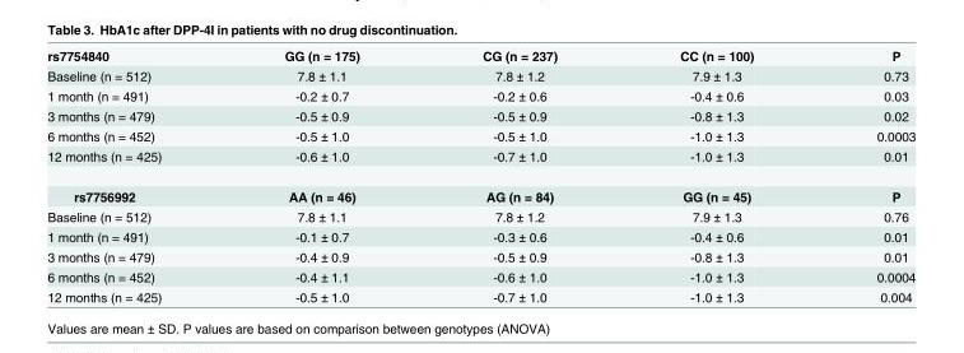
<table><tbody><tr><td>rs7754840</td><td>GG (n = 175)</td><td>CG (n = 237)</td><td>CC (n = 100)</td><td>P</td></tr><tr><td>Baseline (n = 512)</td><td>7.8 ± 1.1</td><td>7.8 ± 1.2</td><td>7.9 ± 1.3</td><td>0.73</td></tr><tr><td>1 month (n = 491)</td><td>-0.2 ± 0.7</td><td>-0.2 ± 0.6</td><td>-0.4 ± 0.6</td><td>0.03</td></tr><tr><td>3 months (n = 479)</td><td>-0.5 ± 0.9</td><td>-0.5 ± 0.9</td><td>-0.8 ± 1.3</td><td>0.02</td></tr><tr><td>6 months (n = 452)</td><td>-0.5 ± 1.0</td><td>-0.5 ± 1.0</td><td>-1.0 ± 1.3</td><td>0.0003</td></tr><tr><td>12 months (n = 425)</td><td>-0.6 ± 1.0</td><td>-0.7 ± 1.0</td><td>-1.0 ± 1.3</td><td>0.01</td></tr><tr><td>rs7756992</td><td>AA (n = 46)</td><td>AG (n = 84)</td><td>GG (n = 45)</td><td>P</td></tr><tr><td>Baseline (n = 512)</td><td>7.8 ± 1.1</td><td>7.8 ± 1.2</td><td>7.9 ± 1.3</td><td>0.76</td></tr><tr><td>1 month (n = 491)</td><td>-0.1 ± 0.7</td><td>-0.3 ± 0.6</td><td>-0.4 ± 0.6</td><td>0.01</td></tr><tr><td>3 months (n = 479)</td><td>-0.4 ± 0.9</td><td>-0.5 ± 0.9</td><td>-0.8 ± 1.3</td><td>0.01</td></tr><tr><td>6 months (n = 452)</td><td>-0.4 ± 1.1</td><td>-0.6 ± 1.0</td><td>-1.0 ± 1.3</td><td>0.0004</td></tr><tr><td>12 months (n = 425)</td><td>-0.5 ± 1.0</td><td>-0.7 ± 1.0</td><td>-1.0 ± 1.3</td><td>0.004</td></tr></tbody></table>